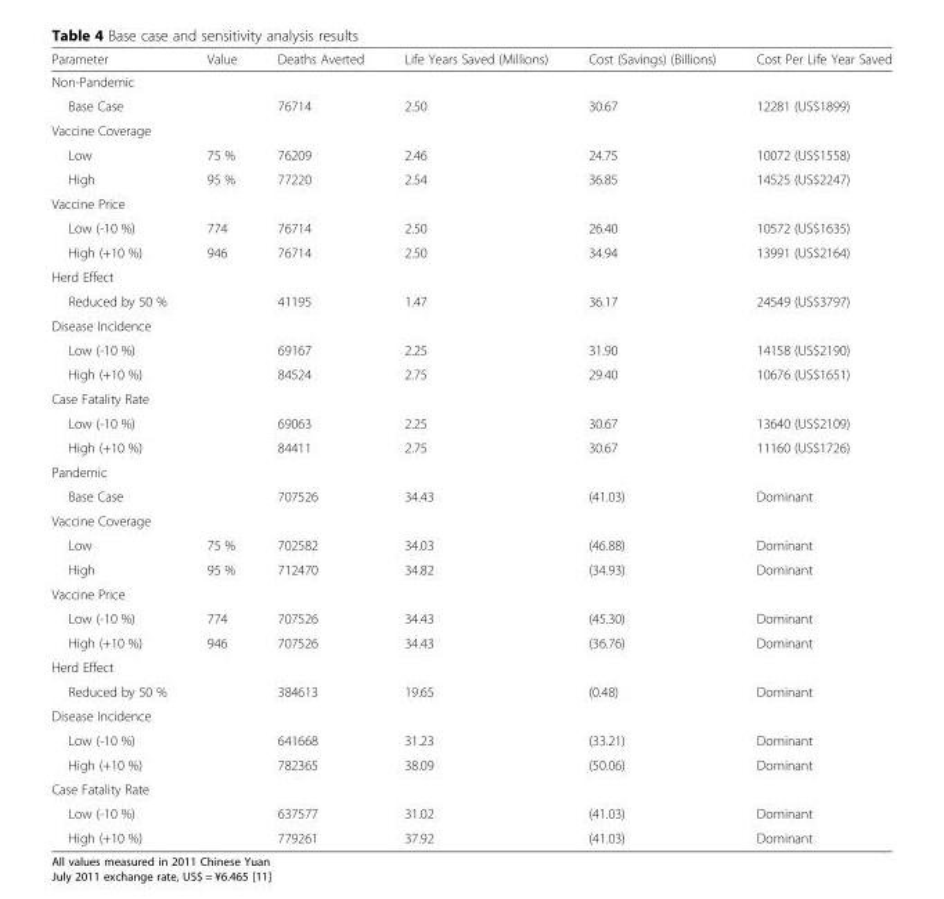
<table><thead><tr><td>Parameter</td><td>Value</td><td>Deaths Averted</td><td>Life Years Saved (Millions)</td><td>Cost (Savings) (Billions)</td><td>Cost Per Life Year Saved</td></tr></thead><tbody><tr><td colspan="6">Non-Pandemic</td></tr><tr><td>Base Case</td><td></td><td>76714</td><td>2.50</td><td>30.67</td><td>12281 (US$1899)</td></tr><tr><td colspan="6">Vaccine Coverage</td></tr><tr><td>Low</td><td>75 %</td><td>76209</td><td>2.46</td><td>24.75</td><td>10072 (US$1558)</td></tr><tr><td>High</td><td>95 %</td><td>77220</td><td>2.54</td><td>36.85</td><td>14525 (US$2247)</td></tr><tr><td colspan="6">Vaccine Price</td></tr><tr><td>Low (-10 %)</td><td>774</td><td>76714</td><td>2.50</td><td>26.40</td><td>10572 (US$1635)</td></tr><tr><td>High (+10 %)</td><td>946</td><td>76714</td><td>2.50</td><td>34.94</td><td>13991 (US$2164)</td></tr><tr><td colspan="6">Herd Effect</td></tr><tr><td>Reduced by 50 %</td><td></td><td>41195</td><td>1.47</td><td>36.17</td><td>24549 (US$3797)</td></tr><tr><td colspan="6">Disease Incidence</td></tr><tr><td>Low (-10 %)</td><td></td><td>69167</td><td>2.25</td><td>31.90</td><td>14158 (US$2190)</td></tr><tr><td>High (+10 %)</td><td></td><td>84524</td><td>2.75</td><td>29.40</td><td>10676 (US$1651)</td></tr><tr><td colspan="6">Case Fatality Rate</td></tr><tr><td>Low (-10 %)</td><td></td><td>69063</td><td>2.25</td><td>30.67</td><td>13640 (US$2109)</td></tr><tr><td>High (+10 %)</td><td></td><td>84411</td><td>2.75</td><td>30.67</td><td>11160 (US$1726)</td></tr><tr><td colspan="6">Pandemic</td></tr><tr><td>Base Case</td><td></td><td>707526</td><td>34.43</td><td>(41.03)</td><td>Dominant</td></tr><tr><td colspan="6">Vaccine Coverage</td></tr><tr><td>Low</td><td>75 %</td><td>702582</td><td>34.03</td><td>(46.88)</td><td>Dominant</td></tr><tr><td>High</td><td>95 %</td><td>712470</td><td>34.82</td><td>(34.93)</td><td>Dominant</td></tr><tr><td colspan="6">Vaccine Price</td></tr><tr><td>Low (-10 %)</td><td>774</td><td>707526</td><td>34.43</td><td>(45.30)</td><td>Dominant</td></tr><tr><td>High (+10 %)</td><td>946</td><td>707526</td><td>34.43</td><td>(36.76)</td><td>Dominant</td></tr><tr><td colspan="6">Herd Effect</td></tr><tr><td>Reduced by 50 %</td><td></td><td>384613</td><td>19.65</td><td>(0.48)</td><td>Dominant</td></tr><tr><td colspan="6">Disease Incidence</td></tr><tr><td>Low (-10 %)</td><td></td><td>641668</td><td>31.23</td><td>(33.21)</td><td>Dominant</td></tr><tr><td>High (+10 %)</td><td></td><td>782365</td><td>38.09</td><td>(50.06)</td><td>Dominant</td></tr><tr><td colspan="6">Case Fatality Rate</td></tr><tr><td>Low (-10 %)</td><td></td><td>637577</td><td>31.02</td><td>(41.03)</td><td>Dominant</td></tr><tr><td>High (+10 %)</td><td></td><td>779261</td><td>37.92</td><td>(41.03)</td><td>Dominant</td></tr></tbody></table>